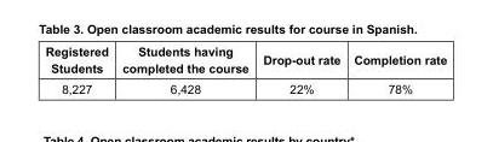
<table><thead><tr><td>Registered Students</td><td>Students having completed the course</td><td>Drop-out rate</td><td>Completion rate</td></tr></thead><tbody><tr><td>8,227</td><td>6,428</td><td>22%</td><td>78%</td></tr></tbody></table>